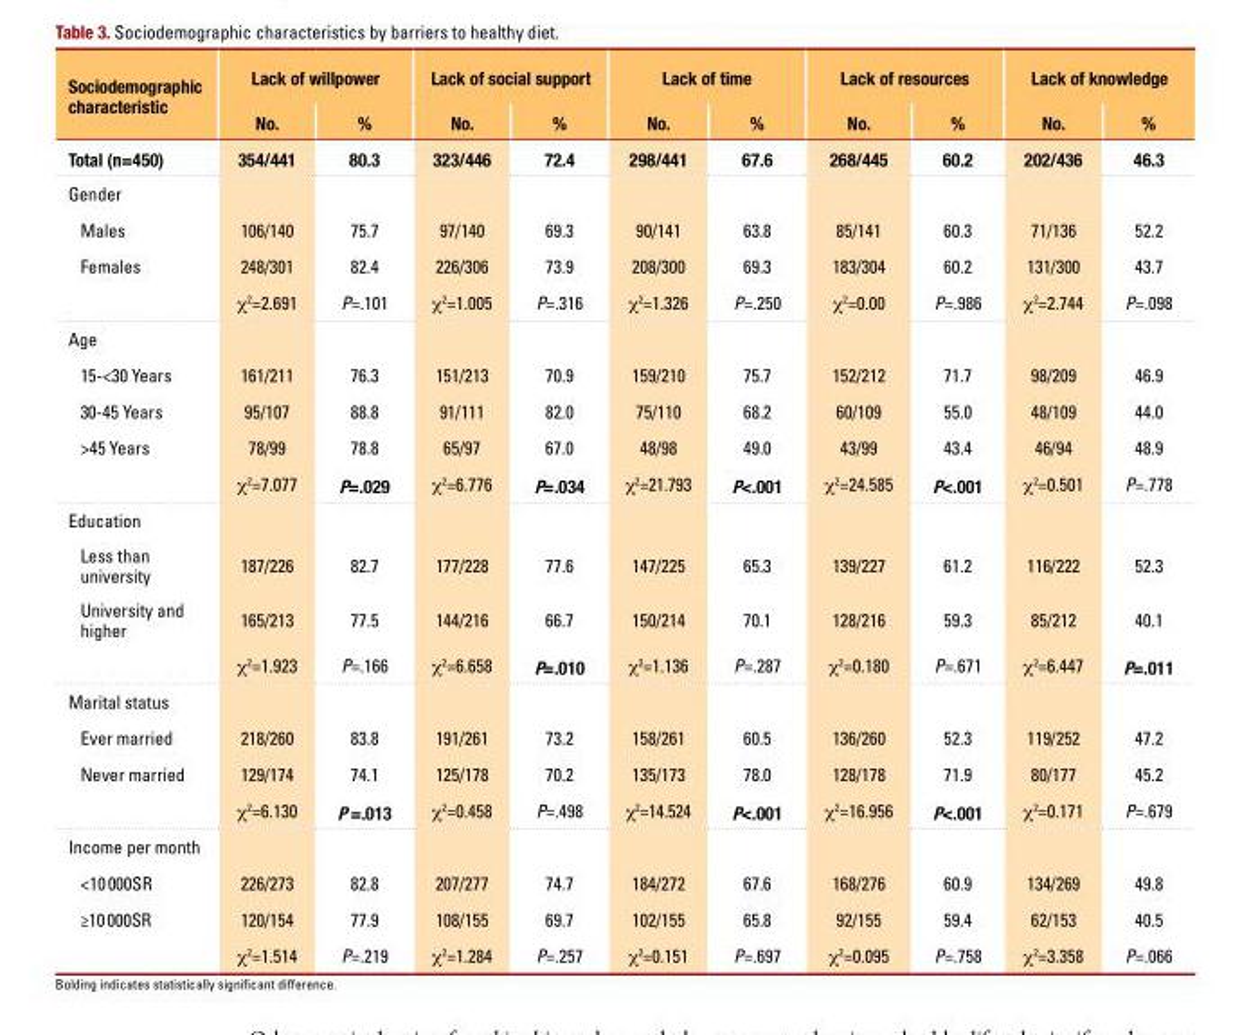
<table><thead><tr><td rowspan="2">Sociodemographic characteristic</td><td colspan="2">Lack of willpower</td><td colspan="2">Lack of social support</td><td colspan="2">Lack of time</td><td colspan="2">Lack of resources</td><td colspan="2">Lack of knowledge</td></tr><tr><td>No.</td><td>%</td><td>No.</td><td>%</td><td>No.</td><td>%</td><td>No.</td><td>%</td><td>No.</td><td>%</td></tr></thead><tbody><tr><td>Total (n=450)</td><td>354/441</td><td>80.3</td><td>323/446</td><td>72.4</td><td>298/441</td><td>67.6</td><td>268/445</td><td>60.2</td><td>202/436</td><td>46.3</td></tr><tr><td colspan="11">Gender</td></tr><tr><td>Males</td><td>106/140</td><td>75.7</td><td>97/140</td><td>69.3</td><td>90/141</td><td>63.8</td><td>85/141</td><td>60.3</td><td>71/136</td><td>52.2</td></tr><tr><td rowspan="2">Females</td><td>248/301</td><td>82.4</td><td>226/306</td><td>73.9</td><td>208/300</td><td>69.3</td><td>183/304</td><td>60.2</td><td>131/300</td><td>43.7</td></tr><tr><td>χ<sup>2</sup>=2.691</td><td>P=.101</td><td>χ<sup>2</sup>=1.005</td><td>P=.316</td><td>χ<sup>2</sup>=1.326</td><td>P=.250</td><td>χ<sup>2</sup>=0.00</td><td>P=.986</td><td>χ<sup>2</sup>=2.744</td><td>P=.098</td></tr><tr><td colspan="11">Age</td></tr><tr><td>15-&lt;30 years</td><td>161/211</td><td>76.3</td><td>151/213</td><td>70.9</td><td>159/210</td><td>75.7</td><td>152/212</td><td>71.7</td><td>98/209</td><td>46.9</td></tr><tr><td>30-45 years</td><td>95/107</td><td>88.8</td><td>91/111</td><td>82.0</td><td>75/110</td><td>68.2</td><td>60/109</td><td>55.0</td><td>48/109</td><td>44.0</td></tr><tr><td rowspan="2">&gt;45 years</td><td>78/99</td><td>78.8</td><td>65/97</td><td>67.0</td><td>48/98</td><td>49.0</td><td>43/99</td><td>43.4</td><td>46/94</td><td>48.9</td></tr><tr><td>χ<sup>2</sup>=7.077</td><td>P=.029</td><td>χ<sup>2</sup>=6.776</td><td>P=.034</td><td>χ<sup>2</sup>=21.793</td><td>P&lt;.001</td><td>χ<sup>2</sup>=24.585</td><td>P&lt;.001</td><td>χ<sup>2</sup>=0.501</td><td>P=.778</td></tr><tr><td colspan="11">education</td></tr><tr><td>less than university</td><td>187/226</td><td>82.7</td><td>177/228</td><td>77.6</td><td>147/225</td><td>65.3</td><td>139/227</td><td>61.2</td><td>116/222</td><td>52.3</td></tr><tr><td rowspan="2">University and higher</td><td>165/213</td><td>77.5</td><td>144/216</td><td>66.7</td><td>150/214</td><td>70.1</td><td>128/216</td><td>59.3</td><td>85/212</td><td>40.1</td></tr><tr><td>χ<sup>2</sup>=1.923</td><td>P=.166</td><td>χ<sup>2</sup>=6.658</td><td>P=.010</td><td>χ<sup>2</sup>=1.136</td><td>P=.287</td><td>χ<sup>2</sup>=0.180</td><td>P=.671</td><td>χ<sup>2</sup>=6.447</td><td>P=.011</td></tr><tr><td colspan="11">Marital status</td></tr><tr><td>ever married</td><td>218/260</td><td>83.8</td><td>191/261</td><td>73.2</td><td>158/261</td><td>60.5</td><td>136/260</td><td>52.3</td><td>119/252</td><td>47.2</td></tr><tr><td rowspan="2">Never married</td><td>129/174</td><td>74.1</td><td>125/178</td><td>70.2</td><td>135/173</td><td>78.0</td><td>128/178</td><td>71.9</td><td>80/177</td><td>45.2</td></tr><tr><td>χ<sup>2</sup>=6.130</td><td>P =.013</td><td>χ<sup>2</sup>=0.458</td><td>P=.498</td><td>χ<sup>2</sup>=14.524</td><td>P&lt;.001</td><td>χ<sup>2</sup>=16.956</td><td>P&lt;.001</td><td>χ<sup>2</sup>=0.171</td><td>P=.679</td></tr><tr><td colspan="11">income per month</td></tr><tr><td>&lt;10 000Sr</td><td>226/273</td><td>82.8</td><td>207/277</td><td>74.7</td><td>184/272</td><td>67.6</td><td>168/276</td><td>60.9</td><td>134/269</td><td>49.8</td></tr><tr><td rowspan="2">≥10 000Sr</td><td>120/154</td><td>77.9</td><td>108/155</td><td>69.7</td><td>102/155</td><td>65.8</td><td>92/155</td><td>59.4</td><td>62/153</td><td>40.5</td></tr><tr><td>χ<sup>2</sup>=1.514</td><td>P=.219</td><td>χ<sup>2</sup>=1.284</td><td>P=.257</td><td>χ<sup>2</sup>=0.151</td><td>P=.697</td><td>χ<sup>2</sup>=0.095</td><td>P=.758</td><td>χ<sup>2</sup>=3.358</td><td>P=.066</td></tr></tbody></table>